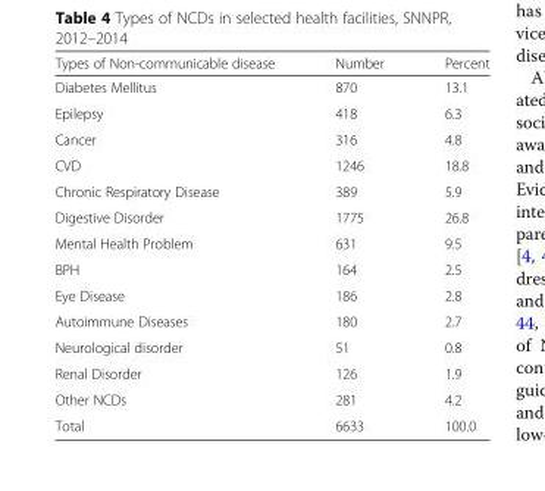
<table><thead><tr><td>Types of Non-communicable disease</td><td>Number</td><td>Percent</td></tr></thead><tbody><tr><td>Diabetes Mellitus</td><td>870</td><td>13.1</td></tr><tr><td>Epilepsy</td><td>418</td><td>6.3</td></tr><tr><td>Cancer</td><td>316</td><td>4.8</td></tr><tr><td>CVD</td><td>1246</td><td>18.8</td></tr><tr><td>Chronic Respiratory Disease</td><td>389</td><td>5.9</td></tr><tr><td>Digestive Disorder</td><td>1775</td><td>26.8</td></tr><tr><td>Mental Health Problem</td><td>631</td><td>9.5</td></tr><tr><td>BPH</td><td>164</td><td>2.5</td></tr><tr><td>Eye Disease</td><td>186</td><td>2.8</td></tr><tr><td>Autoimmune Diseases</td><td>180</td><td>2.7</td></tr><tr><td>Neurological disorder</td><td>51</td><td>0.8</td></tr><tr><td>Renal Disorder</td><td>126</td><td>1.9</td></tr><tr><td>Other NCDs</td><td>281</td><td>4.2</td></tr><tr><td>Total</td><td>6633</td><td>100.0</td></tr></tbody></table>